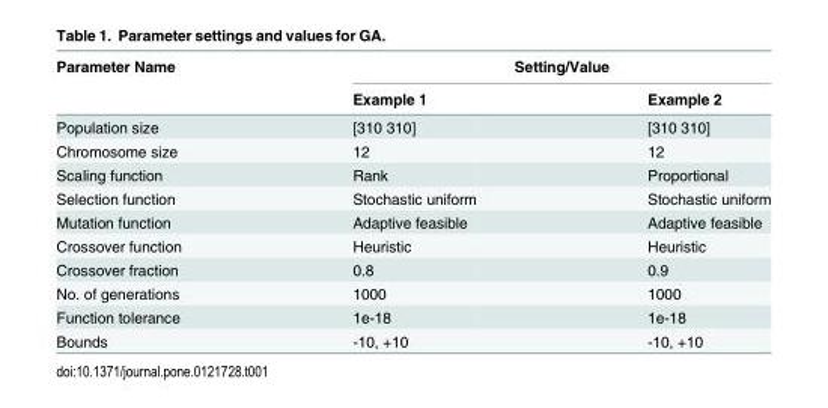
<table><thead><tr><td rowspan="2">Parameter Name</td><td colspan="2">Setting/Value</td></tr><tr><td>Example 1</td><td>Example 2</td></tr></thead><tbody><tr><td>Population size</td><td>[310 310]</td><td>[310 310]</td></tr><tr><td>Chromosome size</td><td>12</td><td>12</td></tr><tr><td>Scaling function</td><td>Rank</td><td>Proportional</td></tr><tr><td>Selection function</td><td>Stochastic uniform</td><td>Stochastic uniform</td></tr><tr><td>Mutation function</td><td>Adaptive feasible</td><td>Adaptive feasible</td></tr><tr><td>Crossover function</td><td>Heuristic</td><td>Heuristic</td></tr><tr><td>Crossover fraction</td><td>0.8</td><td>0.9</td></tr><tr><td>No. of generations</td><td>1000</td><td>1000</td></tr><tr><td>Function tolerance</td><td>1e-18</td><td>1e-18</td></tr><tr><td>Bounds</td><td>-10, +10</td><td>-10, +10</td></tr></tbody></table>